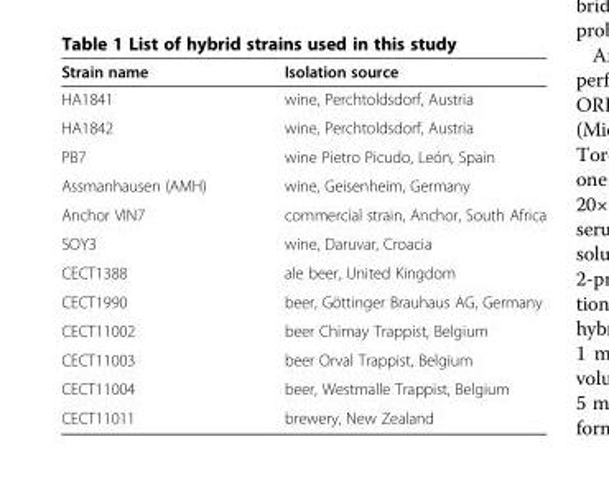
<table><thead><tr><td>Strain name</td><td>Isolation source</td></tr></thead><tbody><tr><td>HA1841</td><td>wine, Perchtoldsdorf, Austria</td></tr><tr><td>HA1842</td><td>wine, Perchtoldsdorf, Austria</td></tr><tr><td>PB7</td><td>wine Pietro Picudo, León, Spain</td></tr><tr><td>Assmanhausen (AMH)</td><td>wine, Geisenheim, Germany</td></tr><tr><td>Anchor VIN7</td><td>commercial strain, Anchor, South Africa</td></tr><tr><td>SOY3</td><td>wine, Daruvar, Croacia</td></tr><tr><td>CECT1388</td><td>ale beer, United Kingdom</td></tr><tr><td>CECT1990</td><td>beer, Göttinger Brauhaus AG, Germany</td></tr><tr><td>CECT11002</td><td>beer Chimay Trappist, Belgium</td></tr><tr><td>CECT11003</td><td>beer Orval Trappist, Belgium</td></tr><tr><td>CECT11004</td><td>beer, Westmalle Trappist, Belgium</td></tr><tr><td>CECT11011</td><td>brewery, New Zealand</td></tr></tbody></table>